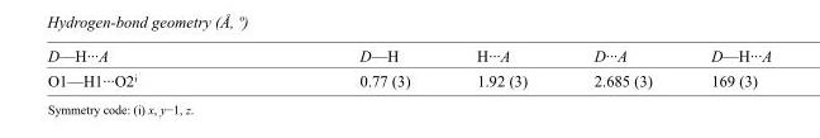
<table><tbody><tr><td>D—H···A</td><td>D—H</td><td>H···A</td><td>D···A</td><td>D—H···A</td></tr><tr><td>O1—H1···O2<sup>i</sup></td><td>0.77 (3)</td><td>1.92 (3)</td><td>2.685 (3)</td><td>169 (3)</td></tr></tbody></table>